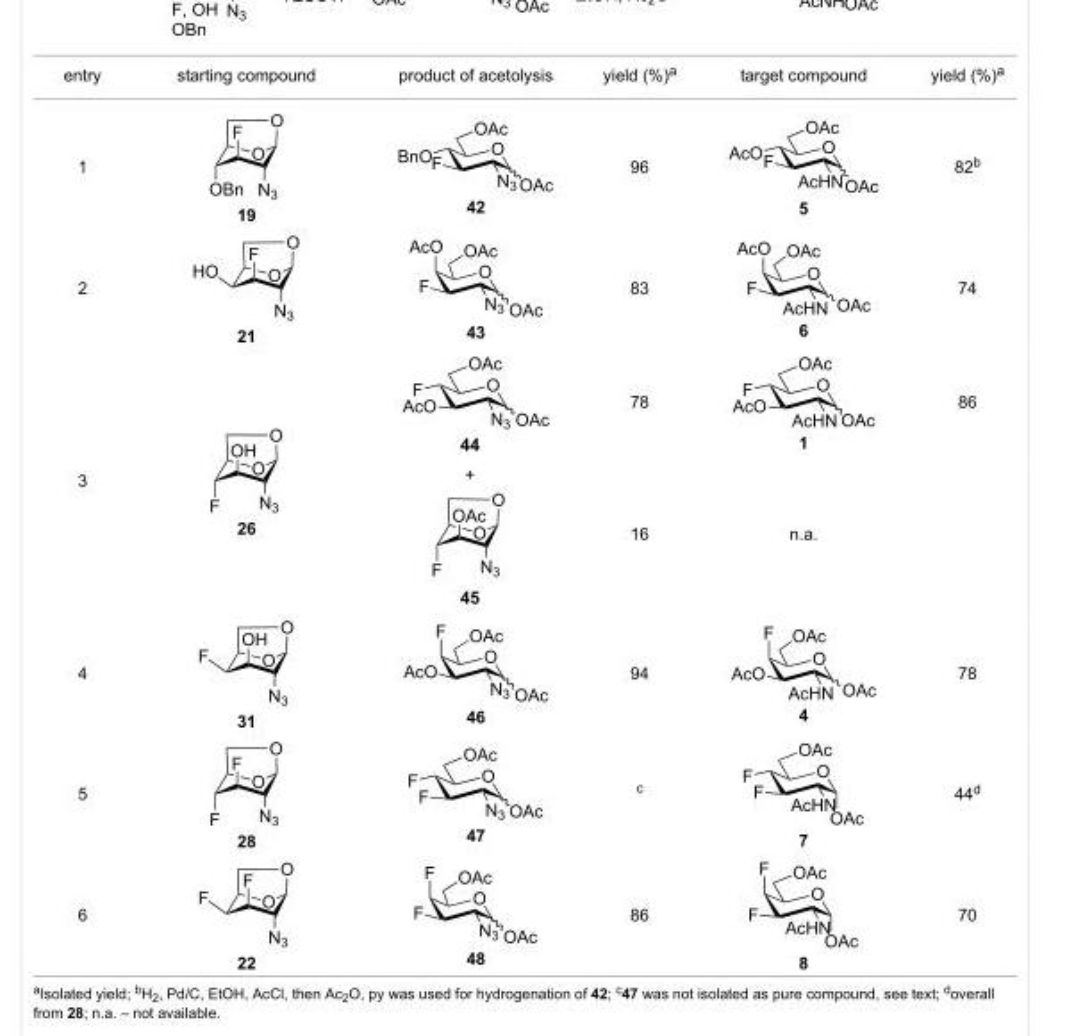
<table><tbody><tr><td>entry</td><td>starting compound</td><td>product of acetolysis</td><td>yield (%)<sup>a</sup></td><td>target compound</td><td>yield (%)<sup>a</sup></td></tr><tr><td>1</td><td>19</td><td>42</td><td>96</td><td>5</td><td>82<sup>b</sup></td></tr><tr><td>2</td><td>21</td><td>43</td><td>83</td><td>6</td><td>74</td></tr><tr><td rowspan="2">3</td><td rowspan="2">26</td><td rowspan="2"></td><td>78</td><td>1</td><td>86</td></tr><tr><td>16</td><td>n.a.</td><td></td></tr><tr><td>4</td><td>31</td><td>46</td><td>94</td><td>4</td><td>78</td></tr><tr><td>5</td><td>28</td><td>47</td><td><sup>c</sup></td><td>7</td><td>44<sup>d</sup></td></tr><tr><td>6</td><td>22</td><td>48</td><td>86</td><td>8</td><td>70</td></tr></tbody></table>